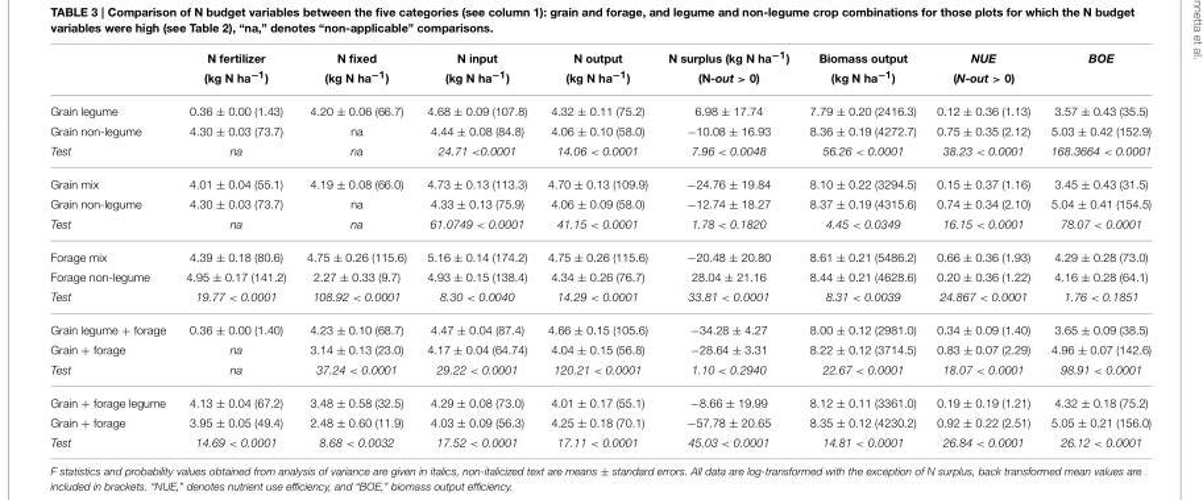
<table><thead><tr><td></td><td>N fertilizer (kg N ha<sup>−1</sup>)</td><td>N fixed (kg N ha<sup>−1</sup>)</td><td>N input (kg N ha<sup>−1</sup>)</td><td>N output (kg N ha<sup>−1</sup>)</td><td>N surplus (kg N ha<sup>−1</sup>) (N-out &gt; 0)</td><td>Biomass output (kg N ha<sup>−1</sup>)</td><td>NUE (N-out &gt; 0)</td><td>BOE</td></tr></thead><tbody><tr><td>Grain legume</td><td>0.36 ± 0.00 (1.43)</td><td>4.20 ± 0.06 (66.7)</td><td>4.68 ± 0.09 (107.8)</td><td>4.32 ± 0.11 (75.2)</td><td>6.98 ± 17.74</td><td>7.79 ± 0.20 (2416.3)</td><td>0.12 ± 0.36 (1.13)</td><td>3.57 ± 0.43 (35.5)</td></tr><tr><td>Grain non-legume</td><td>4.30 ± 0.03 (73.7)</td><td>na</td><td>4.44 ± 0.08 (84.8)</td><td>4.06 ± 0.10 (58.0)</td><td>−10.08 ± 16.93</td><td>8.36 ± 0.19 (4272.7)</td><td>0.75 ± 0.35 (2.12)</td><td>5.03 ± 0.42 (152.9)</td></tr><tr><td>Test</td><td>na</td><td>na</td><td>24.71 &lt;0.0001</td><td>14.06 &lt; 0.0001</td><td>7.96 &lt; 0.0048</td><td>56.26 &lt; 0.0001</td><td>38.23 &lt; 0.0001</td><td>168.3664 &lt; 0.0001</td></tr><tr><td>Grain mix</td><td>4.01 ± 0.04 (55.1)</td><td>4.19 ± 0.08 (66.0)</td><td>4.73 ± 0.13 (113.3)</td><td>4.70 ± 0.13 (109.9)</td><td>−24.76 ± 19.84</td><td>8.10 ± 0.22 (3294.5)</td><td>0.15 ± 0.37 (1.16)</td><td>3.45 ± 0.43 (31.5)</td></tr><tr><td>Grain non-legume</td><td>4.30 ± 0.03 (73.7)</td><td>na</td><td>4.33 ± 0.13 (75.9)</td><td>4.06 ± 0.09 (58.0)</td><td>−12.74 ± 18.27</td><td>8.37 ± 0.19 (4315.6)</td><td>0.74 ± 0.34 (2.10)</td><td>5.04 ± 0.41 (154.5)</td></tr><tr><td>Test</td><td>na</td><td>na</td><td>61.0749 &lt; 0.0001</td><td>41.15 &lt; 0.0001</td><td>1.78 &lt; 0.1820</td><td>4.45 &lt; 0.0349</td><td>16.15 &lt; 0.0001</td><td>78.07 &lt; 0.0001</td></tr><tr><td>Forage mix</td><td>4.39 ± 0.18 (80.6)</td><td>4.75 ± 0.26 (115.6)</td><td>5.16 ± 0.14 (174.2)</td><td>4.75 ± 0.26 (115.6)</td><td>−20.48 ± 20.80</td><td>8.61 ± 0.21 (5486.2)</td><td>0.66 ± 0.36 (1.93)</td><td>4.29 ± 0.28 (73.0)</td></tr><tr><td>Forage non-legume</td><td>4.95 ± 0.17 (141.2)</td><td>2.27 ± 0.33 (9.7)</td><td>4.93 ± 0.15 (138.4)</td><td>4.34 ± 0.26 (76.7)</td><td>28.04 ± 21.16</td><td>8.44 ± 0.21 (4628.6)</td><td>0.20 ± 0.36 (1.22)</td><td>4.16 ± 0.28 (64.1)</td></tr><tr><td>Test</td><td>19.77 &lt; 0.0001</td><td>108.92 &lt; 0.0001</td><td>8.30 &lt; 0.0040</td><td>14.29 &lt; 0.0001</td><td>33.81 &lt; 0.0001</td><td>8.31 &lt; 0.0039</td><td>24.867 &lt; 0.0001</td><td>1.76 &lt; 0.1851</td></tr><tr><td>Grain legume + forage</td><td>0.36 ± 0.00 (1.40)</td><td>4.23 ± 0.10 (68.7)</td><td>4.47 ± 0.04 (87.4)</td><td>4.66 ± 0.15 (105.6)</td><td>−34.28 ± 4.27</td><td>8.00 ± 0.12 (2981.0)</td><td>0.34 ± 0.09 (1.40)</td><td>3.65 ± 0.09 (38.5)</td></tr><tr><td>Grain + forage</td><td>na</td><td>3.14 ± 0.13 (23.0)</td><td>4.17 ± 0.04 (64.74)</td><td>4.04 ± 0.15 (56.8)</td><td>−28.64 ± 3.31</td><td>8.22 ± 0.12 (3714.5)</td><td>0.83 ± 0.07 (2.29)</td><td>4.96 ± 0.07 (142.6)</td></tr><tr><td>Test</td><td>na</td><td>37.24 &lt; 0.0001</td><td>29.22 &lt; 0.0001</td><td>120.21 &lt; 0.0001</td><td>1.10 &lt; 0.2940</td><td>22.67 &lt; 0.0001</td><td>18.07 &lt; 0.0001</td><td>98.91 &lt; 0.0001</td></tr><tr><td>Grain + forage legume</td><td>4.13 ± 0.04 (67.2)</td><td>3.48 ± 0.58 (32.5)</td><td>4.29 ± 0.08 (73.0)</td><td>4.01 ± 0.17 (55.1)</td><td>−8.66 ± 19.99</td><td>8.12 ± 0.11 (3361.0)</td><td>0.19 ± 0.19 (1.21)</td><td>4.32 ± 0.18 (75.2)</td></tr><tr><td>Grain + forage</td><td>3.95 ± 0.05 (49.4)</td><td>2.48 ± 0.60 (11.9)</td><td>4.03 ± 0.09 (56.3)</td><td>4.25 ± 0.18 (70.1)</td><td>−57.78 ± 20.65</td><td>8.35 ± 0.12 (4230.2)</td><td>0.92 ± 0.22 (2.51)</td><td>5.05 ± 0.21 (156.0)</td></tr><tr><td>Test</td><td>14.69 &lt; 0.0001</td><td>8.68 &lt; 0.0032</td><td>17.52 &lt; 0.0001</td><td>17.11 &lt; 0.0001</td><td>45.03 &lt; 0.0001</td><td>14.81 &lt; 0.0001</td><td>26.84 &lt; 0.0001</td><td>26.12 &lt; 0.0001</td></tr></tbody></table>